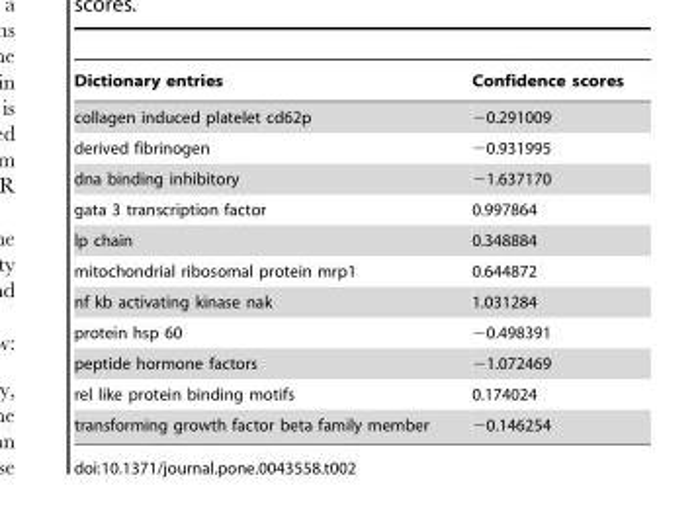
<table><thead><tr><td>Dictionary entries</td><td>Confidence scores</td></tr></thead><tbody><tr><td>collagen induced platelet cd62p</td><td>−0.291009</td></tr><tr><td>derived fibrinogen</td><td>−0.931995</td></tr><tr><td>dna binding inhibitory</td><td>−1.637170</td></tr><tr><td>gata 3 transcription factor</td><td>0.997864</td></tr><tr><td>lp chain</td><td>0.348884</td></tr><tr><td>mitochondrial ribosomal protein mrp1</td><td>0.644872</td></tr><tr><td>nf kb activating kinase nak</td><td>1.031284</td></tr><tr><td>protein hsp 60</td><td>−0.498391</td></tr><tr><td>peptide hormone factors</td><td>−1.072469</td></tr><tr><td>rel like protein binding motifs</td><td>0.174024</td></tr><tr><td>transforming growth factor beta family member</td><td>−0.146254</td></tr></tbody></table>